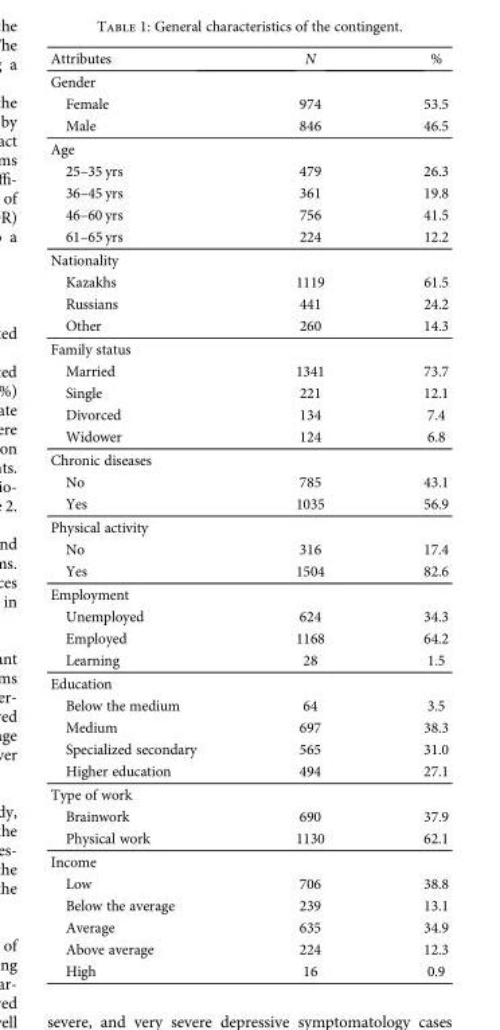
<table><thead><tr><td>Attributes</td><td>N</td><td>%</td></tr></thead><tbody><tr><td colspan="3">Gender</td></tr><tr><td>Female</td><td>974</td><td>53.5</td></tr><tr><td>Male</td><td>846</td><td>46.5</td></tr><tr><td colspan="3">Age</td></tr><tr><td>25–35 yrs</td><td>479</td><td>26.3</td></tr><tr><td>36–45 yrs</td><td>361</td><td>19.8</td></tr><tr><td>46–60 yrs</td><td>756</td><td>41.5</td></tr><tr><td>61–65 yrs</td><td>224</td><td>12.2</td></tr><tr><td colspan="3">Nationality</td></tr><tr><td>Kazakhs</td><td>1119</td><td>61.5</td></tr><tr><td>Russians</td><td>441</td><td>24.2</td></tr><tr><td>Other</td><td>260</td><td>14.3</td></tr><tr><td colspan="3">Family status</td></tr><tr><td>Married</td><td>1341</td><td>73.7</td></tr><tr><td>Single</td><td>221</td><td>12.1</td></tr><tr><td>Divorced</td><td>134</td><td>7.4</td></tr><tr><td>Widower</td><td>124</td><td>6.8</td></tr><tr><td colspan="3">Chronic diseases</td></tr><tr><td>No</td><td>785</td><td>43.1</td></tr><tr><td>Yes</td><td>1035</td><td>56.9</td></tr><tr><td colspan="3">Physical activity</td></tr><tr><td>No</td><td>316</td><td>17.4</td></tr><tr><td>Yes</td><td>1504</td><td>82.6</td></tr><tr><td colspan="3">Employment</td></tr><tr><td>Unemployed</td><td>624</td><td>34.3</td></tr><tr><td>Employed</td><td>1168</td><td>64.2</td></tr><tr><td>Learning</td><td>28</td><td>1.5</td></tr><tr><td colspan="3">Education</td></tr><tr><td>Below the medium</td><td>64</td><td>3.5</td></tr><tr><td>Medium</td><td>697</td><td>38.3</td></tr><tr><td>Specialized secondary</td><td>565</td><td>31.0</td></tr><tr><td>Higher education</td><td>494</td><td>27.1</td></tr><tr><td colspan="3">Type of work</td></tr><tr><td>Brainwork</td><td>690</td><td>37.9</td></tr><tr><td>Physical work</td><td>1130</td><td>62.1</td></tr><tr><td colspan="3">Income</td></tr><tr><td>Low</td><td>706</td><td>38.8</td></tr><tr><td>Below the average</td><td>239</td><td>13.1</td></tr><tr><td>Average</td><td>635</td><td>34.9</td></tr><tr><td>Above average</td><td>224</td><td>12.3</td></tr><tr><td>High</td><td>16</td><td>0.9</td></tr></tbody></table>